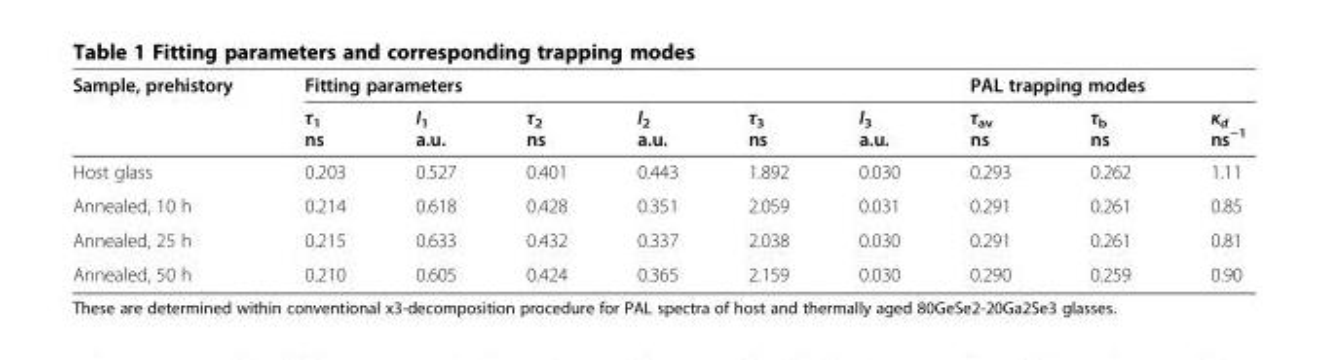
<table><thead><tr><td rowspan="2">Sample, prehistory</td><td colspan="6">Fitting parameters</td><td colspan="3">PAL trapping modes</td></tr><tr><td>τ<sub>1</sub> ns</td><td>I<sub>1</sub> a.u.</td><td>τ<sub>2</sub> ns</td><td>I<sub>2</sub> a.u.</td><td>τ<sub>3</sub> ns</td><td>I<sub>3</sub> a.u.</td><td>τ<sub>av</sub> ns</td><td>τ<sub>b</sub> ns</td><td>κ<sub>d</sub> ns<sup>−1</sup></td></tr></thead><tbody><tr><td>Host glass</td><td>0.203</td><td>0.527</td><td>0.401</td><td>0.443</td><td>1.892</td><td>0.030</td><td>0.293</td><td>0.262</td><td>1.11</td></tr><tr><td>Annealed, 10 h</td><td>0.214</td><td>0.618</td><td>0.428</td><td>0.351</td><td>2.059</td><td>0.031</td><td>0.291</td><td>0.261</td><td>0.85</td></tr><tr><td>Annealed, 25 h</td><td>0.215</td><td>0.633</td><td>0.432</td><td>0.337</td><td>2.038</td><td>0.030</td><td>0.291</td><td>0.261</td><td>0.81</td></tr><tr><td>Annealed, 50 h</td><td>0.210</td><td>0.605</td><td>0.424</td><td>0.365</td><td>2.159</td><td>0.030</td><td>0.290</td><td>0.259</td><td>0.90</td></tr></tbody></table>